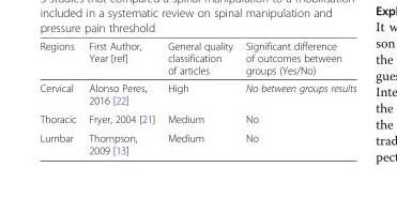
<table><thead><tr><td>Regions</td><td>First Author, Year [ref]</td><td>General quality classification of articles</td><td>Significant difference of outcomes between groups (Yes/No)</td></tr></thead><tbody><tr><td>Cervical</td><td>Alonso Peres, 2016 [22]</td><td>High</td><td>No between groups results</td></tr><tr><td>Thoracic</td><td>Fryer, 2004 [21]</td><td>Medium</td><td>No</td></tr><tr><td>Lumbar</td><td>Thompson, 2009 [13]</td><td>Medium</td><td>No</td></tr></tbody></table>